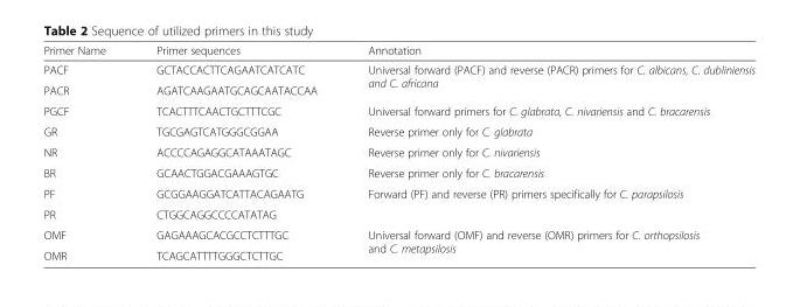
<table><thead><tr><td>Primer Name</td><td>Primer sequences</td><td>Annotation</td></tr></thead><tbody><tr><td>PACF</td><td>GCTACCACTTCAGAATCATCATC</td><td rowspan="2">Universal forward (PACF) and reverse (PACR) primers for C. albicans, C. dubliniensis and C. africana</td></tr><tr><td>PACR</td><td>AGATCAAGAATGCAGCAATACCAA</td></tr><tr><td>PGCF</td><td>TCACTTTCAACTGCTTTCGC</td><td>Universal forward primers for C. glabrata, C. nivariensis and C. bracarensis</td></tr><tr><td>GR</td><td>TGCGAGTCATGGGCGGAA</td><td>Reverse primer only for C. glabrata</td></tr><tr><td>NR</td><td>ACCCCAGAGGCATAAATAGC</td><td>Reverse primer only for C. nivariensis</td></tr><tr><td>BR</td><td>GCAACTGGACGAAAGTGC</td><td>Reverse primer only for C. bracarensis</td></tr><tr><td>PF</td><td>GCGGAAGGATCATTACAGAATG</td><td rowspan="2">Forward (PF) and reverse (PR) primers specifically for C. parapsilosis</td></tr><tr><td>PR</td><td>CTGGCAGGCCCCATATAG</td></tr><tr><td>OMF</td><td>GAGAAAGCACGCCTCTTTGC</td><td rowspan="2">Universal forward (OMF) and reverse (OMR) primers for C. orthopsilosis and C. metapsilosis</td></tr><tr><td>OMR</td><td>TCAGCATTTTGGGCTCTTGC</td></tr></tbody></table>